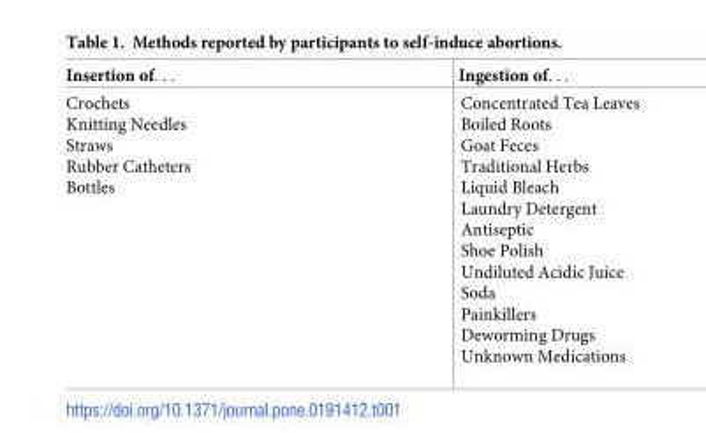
<table><thead><tr><td>Insertion of. . .</td><td>Ingestion of. . .</td></tr></thead><tbody><tr><td>Crochets Knitting Needles Straws Rubber Catheters Bottles</td><td>Concentrated Tea Leaves Boiled Roots Goat Feces Traditional Herbs Liquid Bleach Laundry Detergent Antiseptic Shoe Polish Undiluted Acidic Juice Soda Painkillers Deworming Drugs Unknown Medications</td></tr></tbody></table>